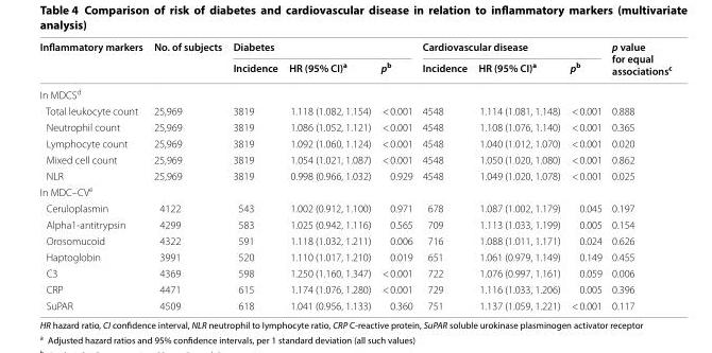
<table><thead><tr><td rowspan="2">Inflammatory markers</td><td rowspan="2">No. of subjects</td><td colspan="3">Diabetes</td><td colspan="3">Cardiovascular disease</td><td rowspan="2">p value for equal associations<sup>c</sup></td></tr><tr><td>Incidence</td><td>HR (95% CI)<sup>a</sup></td><td>p<sup>b</sup></td><td>Incidence</td><td>HR (95% CI)<sup>a</sup></td><td>p<sup>b</sup></td></tr></thead><tbody><tr><td colspan="9">In MDCS<sup>d</sup></td></tr><tr><td>Total leukocyte count</td><td>25,969</td><td>3819</td><td>1.118 (1.082, 1.154)</td><td>&lt; 0.001</td><td>4548</td><td>1.114 (1.081, 1.148)</td><td>&lt; 0.001</td><td>0.888</td></tr><tr><td>Neutrophil count</td><td>25,969</td><td>3819</td><td>1.086 (1.052, 1.121)</td><td>&lt; 0.001</td><td>4548</td><td>1.108 (1.076, 1.140)</td><td>&lt; 0.001</td><td>0.365</td></tr><tr><td>Lymphocyte count</td><td>25,969</td><td>3819</td><td>1.092 (1.060, 1.124)</td><td>&lt; 0.001</td><td>4548</td><td>1.040 (1.012, 1.070)</td><td>&lt; 0.001</td><td>0.020</td></tr><tr><td>Mixed cell count</td><td>25,969</td><td>3819</td><td>1.054 (1.021, 1.087)</td><td>&lt; 0.001</td><td>4548</td><td>1.050 (1.020, 1.080)</td><td>&lt; 0.001</td><td>0.862</td></tr><tr><td>NLR</td><td>25,969</td><td>3819</td><td>0.998 (0.966, 1.032)</td><td>0.929</td><td>4548</td><td>1.049 (1.020, 1.078)</td><td>&lt; 0.001</td><td>0.025</td></tr><tr><td colspan="9">In MDC–CV<sup>e</sup></td></tr><tr><td>Ceruloplasmin</td><td>4122</td><td>543</td><td>1.002 (0.912, 1.100)</td><td>0.971</td><td>678</td><td>1.087 (1.002, 1.179)</td><td>0.045</td><td>0.197</td></tr><tr><td>Alpha1-antitrypsin</td><td>4299</td><td>583</td><td>1.025 (0.942, 1.116)</td><td>0.565</td><td>709</td><td>1.113 (1.033, 1.199)</td><td>0.005</td><td>0.154</td></tr><tr><td>Orosomucoid</td><td>4322</td><td>591</td><td>1.118 (1.032, 1.211)</td><td>0.006</td><td>716</td><td>1.088 (1.011, 1.171)</td><td>0.024</td><td>0.626</td></tr><tr><td>Haptoglobin</td><td>3991</td><td>520</td><td>1.110 (1.017, 1.210)</td><td>0.019</td><td>651</td><td>1.061 (0.979, 1.149)</td><td>0.149</td><td>0.455</td></tr><tr><td>C3</td><td>4369</td><td>598</td><td>1.250 (1.160, 1.347)</td><td>&lt; 0.001</td><td>722</td><td>1.076 (0.997, 1.161)</td><td>0.059</td><td>0.006</td></tr><tr><td>CRP</td><td>4471</td><td>615</td><td>1.174 (1.076, 1.280)</td><td>&lt; 0.001</td><td>729</td><td>1.116 (1.033, 1.206)</td><td>0.005</td><td>0.396</td></tr><tr><td>SuPAR</td><td>4509</td><td>618</td><td>1.041 (0.956, 1.133)</td><td>0.360</td><td>751</td><td>1.137 (1.059, 1.221)</td><td>&lt; 0.001</td><td>0.117</td></tr></tbody></table>